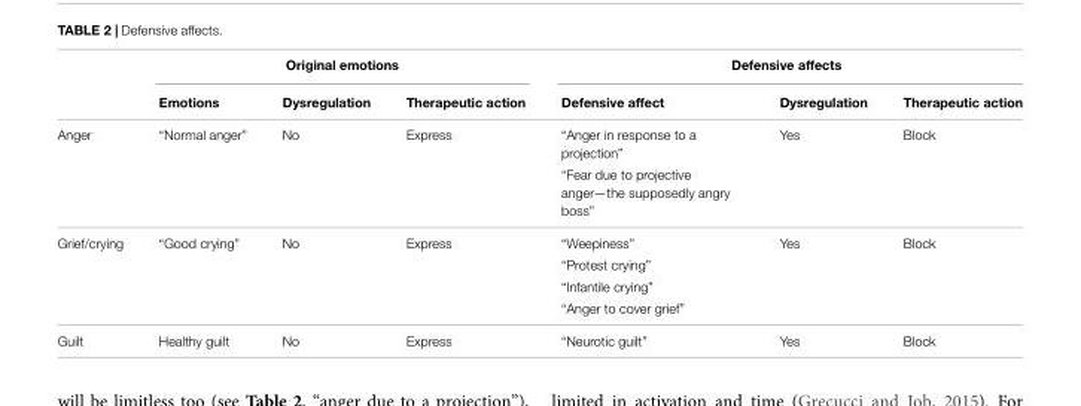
<table><thead><tr><td rowspan="2"></td><td colspan="3">Original emotions</td><td colspan="3">Defensive affects</td></tr><tr><td>Emotions</td><td>Dysregulation</td><td>Therapeutic action</td><td>Defensive affect</td><td>Dysregulation</td><td>Therapeutic action</td></tr></thead><tbody><tr><td rowspan="2">Anger</td><td>“Normal anger”</td><td>No</td><td>Express</td><td>“Anger in response to a projection”</td><td>Yes</td><td>Block</td></tr><tr><td></td><td></td><td></td><td>“Fear due to projective anger—the supposedly angry boss”</td><td></td><td></td></tr><tr><td rowspan="4">Grief/crying</td><td>“Good crying”</td><td>No</td><td>Express</td><td>“Weepiness”</td><td>Yes</td><td>Block</td></tr><tr><td></td><td></td><td></td><td>“Protest crying”</td><td></td><td></td></tr><tr><td></td><td></td><td></td><td>“Infantile crying”</td><td></td><td></td></tr><tr><td></td><td></td><td></td><td>“Anger to cover grief”</td><td></td><td></td></tr><tr><td>Guilt</td><td>Healthy guilt</td><td>No</td><td>Express</td><td>“Neurotic guilt”</td><td>Yes</td><td>Block</td></tr></tbody></table>